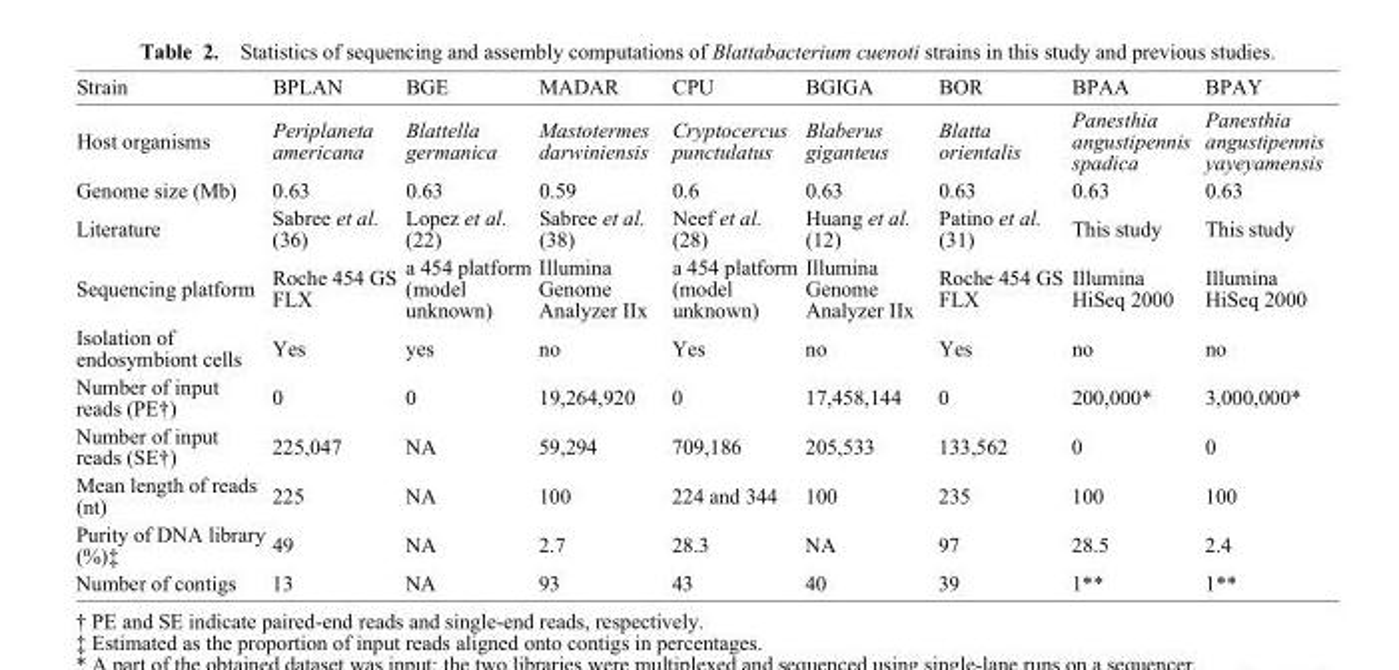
<table><thead><tr><td>Strain</td><td>BPLAN</td><td>BGE</td><td>MADAR</td><td>CPU</td><td>BGIGA</td><td>BOR</td><td>BPAA</td><td>BPAY</td></tr></thead><tbody><tr><td>Host organisms</td><td>Periplaneta americana</td><td>Blattella germanica</td><td>Mastotermes darwiniensis</td><td>Cryptocercus punctulatus</td><td>Blaberus giganteus</td><td>Blatta orientalis</td><td>Panesthia angustipennis spadica</td><td>Panesthia angustipennis yayeyamensis</td></tr><tr><td>Genome size (Mb)</td><td>0.63</td><td>0.63</td><td>0.59</td><td>0.6</td><td>0.63</td><td>0.63</td><td>0.63</td><td>0.63</td></tr><tr><td>Literature</td><td>Sabree et al. (36)</td><td>Lopez et al. (22)</td><td>Sabree et al. (38)</td><td>Neef et al. (28)</td><td>Huang et al. (12)</td><td>Patino et al. (31)</td><td>This study</td><td>This study</td></tr><tr><td>Sequencing platform</td><td>Roche 454 GS FLX</td><td>a 454 platform (model unknown)</td><td>Illumina Genome Analyzer IIx</td><td>a 454 platform (model unknown)</td><td>Illumina Genome Analyzer IIx</td><td>Roche 454 GS FLX</td><td>Illumina HiSeq 2000</td><td>Illumina HiSeq 2000</td></tr><tr><td>Isolation of endosymbiont cells</td><td>Yes</td><td>yes</td><td>no</td><td>Yes</td><td>no</td><td>Yes</td><td>no</td><td>no</td></tr><tr><td>Number of input reads (PE†)</td><td>0</td><td>0</td><td>19,264,920</td><td>0</td><td>17,458,144</td><td>0</td><td>200,000*</td><td>3,000,000*</td></tr><tr><td>Number of input reads (SE†)</td><td>225,047</td><td>NA</td><td>59,294</td><td>709,186</td><td>205,533</td><td>133,562</td><td>0</td><td>0</td></tr><tr><td>Mean length of reads (nt)</td><td>225</td><td>NA</td><td>100</td><td>224 and 344</td><td>100</td><td>235</td><td>100</td><td>100</td></tr><tr><td>Purity of DNA library (%)‡</td><td>49</td><td>NA</td><td>2.7</td><td>28.3</td><td>NA</td><td>97</td><td>28.5</td><td>2.4</td></tr><tr><td>Number of contigs</td><td>13</td><td>NA</td><td>93</td><td>43</td><td>40</td><td>39</td><td>1**</td><td>1**</td></tr></tbody></table>